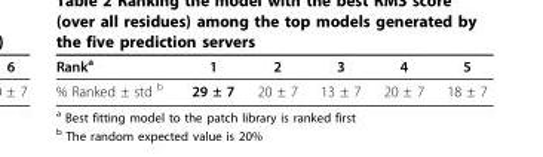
<table><thead><tr><td>Rank<sup>a</sup></td><td>1</td><td>2</td><td>3</td><td>4</td><td>5</td></tr></thead><tbody><tr><td>% Ranked ± std <sup>b</sup></td><td>29 ± 7</td><td>20 ± 7</td><td>13 ± 7</td><td>20 ± 7</td><td>18 ± 7</td></tr></tbody></table>